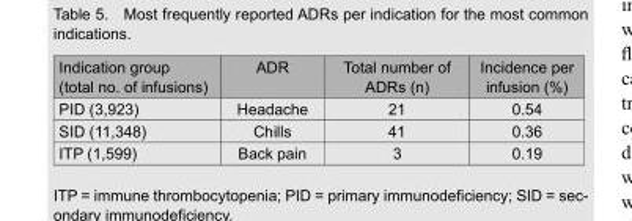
<table><thead><tr><td>Indication group (total no. of infusions)</td><td>ADR</td><td>Total number of ADRs (n)</td><td>Incidence per infusion (%)</td></tr></thead><tbody><tr><td>PID (3,923)</td><td>Headache</td><td>21</td><td>0.54</td></tr><tr><td>SID (11,348)</td><td>Chills</td><td>41</td><td>0.36</td></tr><tr><td>ITP (1,599)</td><td>Back pain</td><td>3</td><td>0.19</td></tr></tbody></table>